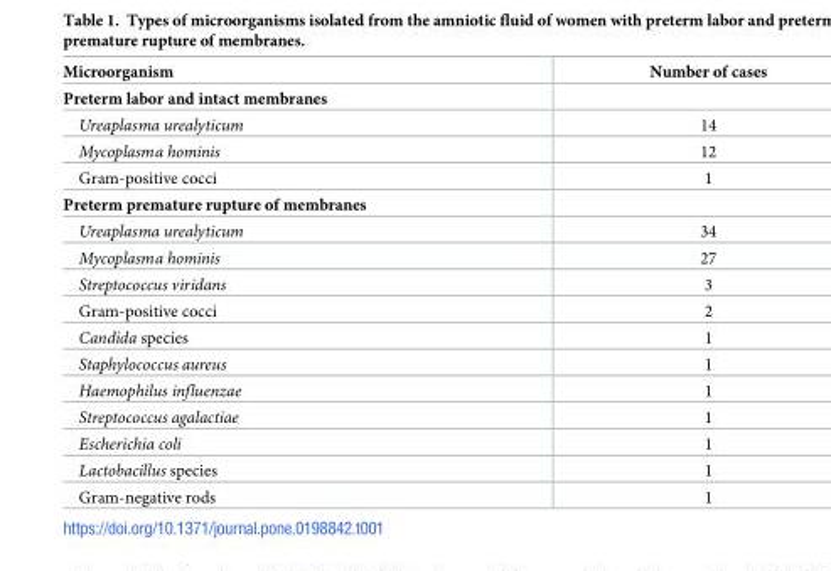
<table><thead><tr><td>Microorganism</td><td>Number of cases</td></tr></thead><tbody><tr><td colspan="2">Preterm labor and intact membranes</td></tr><tr><td>Ureaplasma urealyticum</td><td>14</td></tr><tr><td>Mycoplasma hominis</td><td>12</td></tr><tr><td>Gram-positive cocci</td><td>1</td></tr><tr><td colspan="2">Preterm premature rupture of membranes</td></tr><tr><td>Ureaplasma urealyticum</td><td>34</td></tr><tr><td>Mycoplasma hominis</td><td>27</td></tr><tr><td>Streptococcus viridans</td><td>3</td></tr><tr><td>Gram-positive cocci</td><td>2</td></tr><tr><td>Candida species</td><td>1</td></tr><tr><td>Staphylococcus aureus</td><td>1</td></tr><tr><td>Haemophilus influenzae</td><td>1</td></tr><tr><td>Streptococcus agalactiae</td><td>1</td></tr><tr><td>Escherichia coli</td><td>1</td></tr><tr><td>Lactobacillus species</td><td>1</td></tr><tr><td>Gram-negative rods</td><td>1</td></tr></tbody></table>